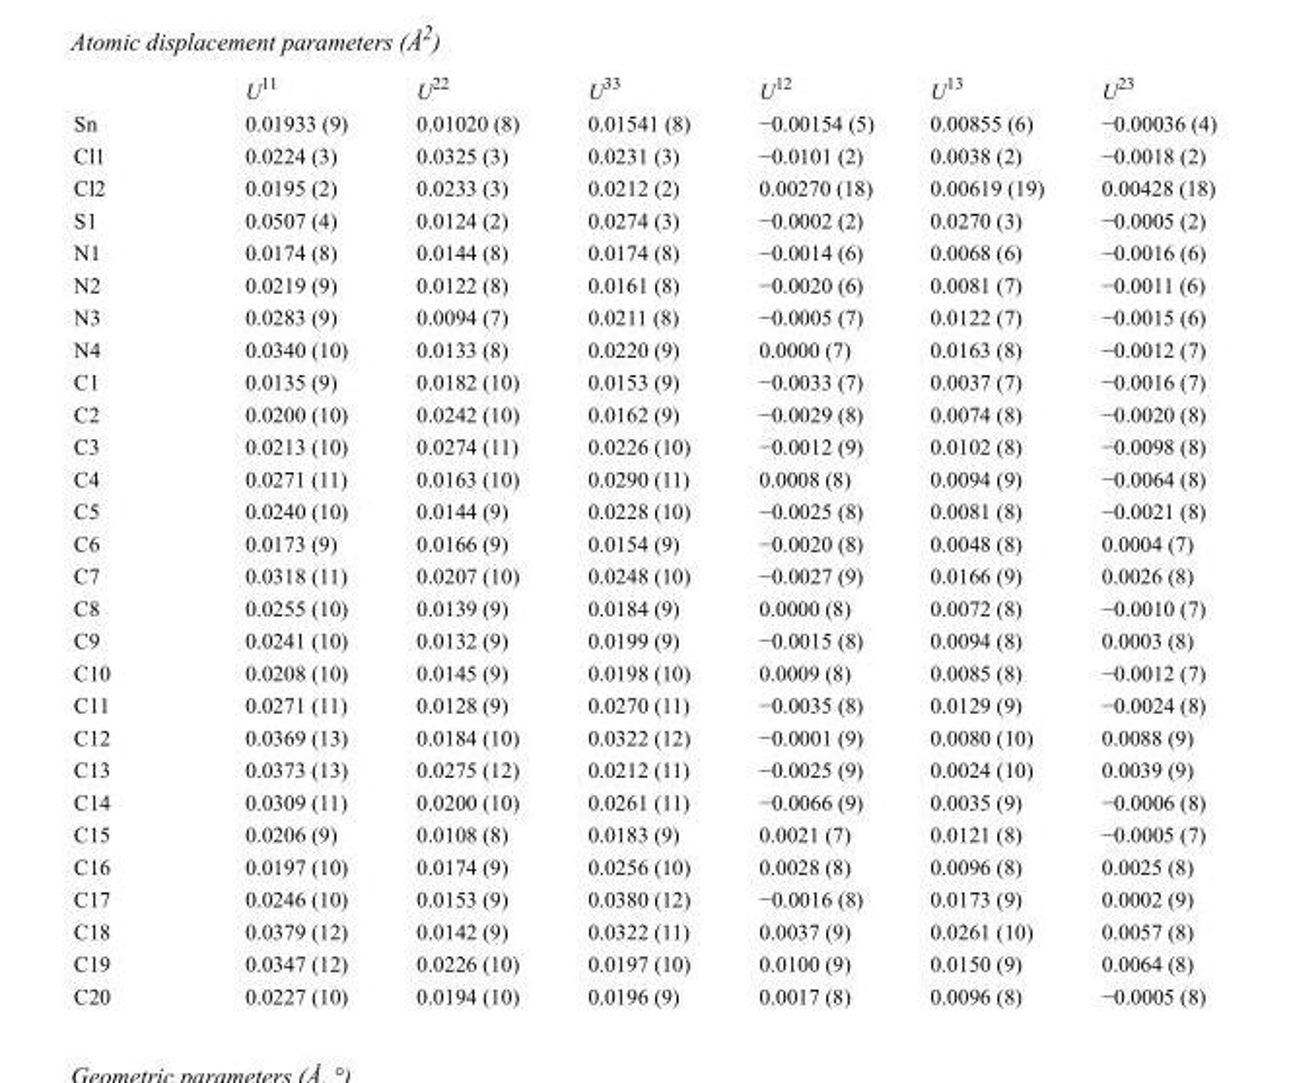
<table><thead><tr><td></td><td>U<sup>11</sup></td><td>U<sup>22</sup></td><td>U<sup>33</sup></td><td>U<sup>12</sup></td><td>U<sup>13</sup></td><td>U<sup>23</sup></td></tr></thead><tbody><tr><td>Sn</td><td>0.01933 (9)</td><td>0.01020 (8)</td><td>0.01541 (8)</td><td>−0.00154 (5)</td><td>0.00855 (6)</td><td>−0.00036 (4)</td></tr><tr><td>Cl1</td><td>0.0224 (3)</td><td>0.0325 (3)</td><td>0.0231 (3)</td><td>−0.0101 (2)</td><td>0.0038 (2)</td><td>−0.0018 (2)</td></tr><tr><td>Cl2</td><td>0.0195 (2)</td><td>0.0233 (3)</td><td>0.0212 (2)</td><td>0.00270 (18)</td><td>0.00619 (19)</td><td>0.00428 (18)</td></tr><tr><td>S1</td><td>0.0507 (4)</td><td>0.0124 (2)</td><td>0.0274 (3)</td><td>−0.0002 (2)</td><td>0.0270 (3)</td><td>−0.0005 (2)</td></tr><tr><td>N1</td><td>0.0174 (8)</td><td>0.0144 (8)</td><td>0.0174 (8)</td><td>−0.0014 (6)</td><td>0.0068 (6)</td><td>−0.0016 (6)</td></tr><tr><td>N2</td><td>0.0219 (9)</td><td>0.0122 (8)</td><td>0.0161 (8)</td><td>−0.0020 (6)</td><td>0.0081 (7)</td><td>−0.0011 (6)</td></tr><tr><td>N3</td><td>0.0283 (9)</td><td>0.0094 (7)</td><td>0.0211 (8)</td><td>−0.0005 (7)</td><td>0.0122 (7)</td><td>−0.0015 (6)</td></tr><tr><td>N4</td><td>0.0340 (10)</td><td>0.0133 (8)</td><td>0.0220 (9)</td><td>0.0000 (7)</td><td>0.0163 (8)</td><td>−0.0012 (7)</td></tr><tr><td>C1</td><td>0.0135 (9)</td><td>0.0182 (10)</td><td>0.0153 (9)</td><td>−0.0033 (7)</td><td>0.0037 (7)</td><td>−0.0016 (7)</td></tr><tr><td>C2</td><td>0.0200 (10)</td><td>0.0242 (10)</td><td>0.0162 (9)</td><td>−0.0029 (8)</td><td>0.0074 (8)</td><td>−0.0020 (8)</td></tr><tr><td>C3</td><td>0.0213 (10)</td><td>0.0274 (11)</td><td>0.0226 (10)</td><td>−0.0012 (9)</td><td>0.0102 (8)</td><td>−0.0098 (8)</td></tr><tr><td>C4</td><td>0.0271 (11)</td><td>0.0163 (10)</td><td>0.0290 (11)</td><td>0.0008 (8)</td><td>0.0094 (9)</td><td>−0.0064 (8)</td></tr><tr><td>C5</td><td>0.0240 (10)</td><td>0.0144 (9)</td><td>0.0228 (10)</td><td>−0.0025 (8)</td><td>0.0081 (8)</td><td>−0.0021 (8)</td></tr><tr><td>C6</td><td>0.0173 (9)</td><td>0.0166 (9)</td><td>0.0154 (9)</td><td>−0.0020 (8)</td><td>0.0048 (8)</td><td>0.0004 (7)</td></tr><tr><td>C7</td><td>0.0318 (11)</td><td>0.0207 (10)</td><td>0.0248 (10)</td><td>−0.0027 (9)</td><td>0.0166 (9)</td><td>0.0026 (8)</td></tr><tr><td>C8</td><td>0.0255 (10)</td><td>0.0139 (9)</td><td>0.0184 (9)</td><td>0.0000 (8)</td><td>0.0072 (8)</td><td>−0.0010 (7)</td></tr><tr><td>C9</td><td>0.0241 (10)</td><td>0.0132 (9)</td><td>0.0199 (9)</td><td>−0.0015 (8)</td><td>0.0094 (8)</td><td>0.0003 (8)</td></tr><tr><td>C10</td><td>0.0208 (10)</td><td>0.0145 (9)</td><td>0.0198 (10)</td><td>0.0009 (8)</td><td>0.0085 (8)</td><td>−0.0012 (7)</td></tr><tr><td>C11</td><td>0.0271 (11)</td><td>0.0128 (9)</td><td>0.0270 (11)</td><td>−0.0035 (8)</td><td>0.0129 (9)</td><td>−0.0024 (8)</td></tr><tr><td>C12</td><td>0.0369 (13)</td><td>0.0184 (10)</td><td>0.0322 (12)</td><td>−0.0001 (9)</td><td>0.0080 (10)</td><td>0.0088 (9)</td></tr><tr><td>C13</td><td>0.0373 (13)</td><td>0.0275 (12)</td><td>0.0212 (11)</td><td>−0.0025 (9)</td><td>0.0024 (10)</td><td>0.0039 (9)</td></tr><tr><td>C14</td><td>0.0309 (11)</td><td>0.0200 (10)</td><td>0.0261 (11)</td><td>−0.0066 (9)</td><td>0.0035 (9)</td><td>−0.0006 (8)</td></tr><tr><td>C15</td><td>0.0206 (9)</td><td>0.0108 (8)</td><td>0.0183 (9)</td><td>0.0021 (7)</td><td>0.0121 (8)</td><td>−0.0005 (7)</td></tr><tr><td>C16</td><td>0.0197 (10)</td><td>0.0174 (9)</td><td>0.0256 (10)</td><td>0.0028 (8)</td><td>0.0096 (8)</td><td>0.0025 (8)</td></tr><tr><td>C17</td><td>0.0246 (10)</td><td>0.0153 (9)</td><td>0.0380 (12)</td><td>−0.0016 (8)</td><td>0.0173 (9)</td><td>0.0002 (9)</td></tr><tr><td>C18</td><td>0.0379 (12)</td><td>0.0142 (9)</td><td>0.0322 (11)</td><td>0.0037 (9)</td><td>0.0261 (10)</td><td>0.0057 (8)</td></tr><tr><td>C19</td><td>0.0347 (12)</td><td>0.0226 (10)</td><td>0.0197 (10)</td><td>0.0100 (9)</td><td>0.0150 (9)</td><td>0.0064 (8)</td></tr><tr><td>C20</td><td>0.0227 (10)</td><td>0.0194 (10)</td><td>0.0196 (9)</td><td>0.0017 (8)</td><td>0.0096 (8)</td><td>−0.0005 (8)</td></tr></tbody></table>